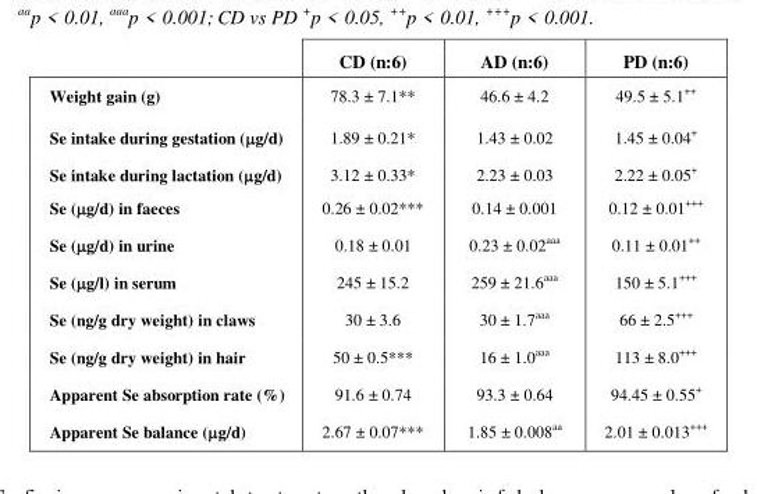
<table><thead><tr><td></td><td>CD (n:6)</td><td>AD (n:6)</td><td>PD (n:6)</td></tr></thead><tbody><tr><td>Weight gain (g)</td><td>78.3 ± 7.1**</td><td>46.6 ± 4.2</td><td>49.5 ± 5.1<sup>++</sup></td></tr><tr><td>Se intake during gestation (μg/d)</td><td>1.89 ± 0.21*</td><td>1.43 ± 0.02</td><td>1.45 ± 0.04<sup>+</sup></td></tr><tr><td>Se intake during lactation (μg/d)</td><td>3.12 ± 0.33*</td><td>2.23 ± 0.03</td><td>2.22 ± 0.05<sup>+</sup></td></tr><tr><td>Se (μg/d) in faeces</td><td>0.26 ± 0.02***</td><td>0.14 ± 0.001</td><td>0.12 ± 0.01<sup>+++</sup></td></tr><tr><td>Se (μg/d) in urine</td><td>0.18 ± 0.01</td><td>0.23 ± 0.02aaa</td><td>0.11 ± 0.01<sup>++</sup></td></tr><tr><td>Se (μg/l) in serum</td><td>245 ± 15.2</td><td>259 ± 21.6aaa</td><td>150 ± 5.1<sup>+++</sup></td></tr><tr><td>Se (ng/g dry weight) in claws</td><td>30 ± 3.6</td><td>30 ± 1.7aaa</td><td>66 ± 2.5<sup>+++</sup></td></tr><tr><td>Se (ng/g dry weight) in hair</td><td>50 ± 0.5***</td><td>16 ± 1.0aaa</td><td>113 ± 8.0<sup>+++</sup></td></tr><tr><td>Apparent Se absorption rate (%)</td><td>91.6 ± 0.74</td><td>93.3 ± 0.64</td><td>94.45 ± 0.55<sup>+</sup></td></tr><tr><td>Apparent Se balance (μg/d)</td><td>2.67 ± 0.07***</td><td>1.85 ± 0.008<sup>aa</sup></td><td>2.01 ± 0.013<sup>+++</sup></td></tr></tbody></table>